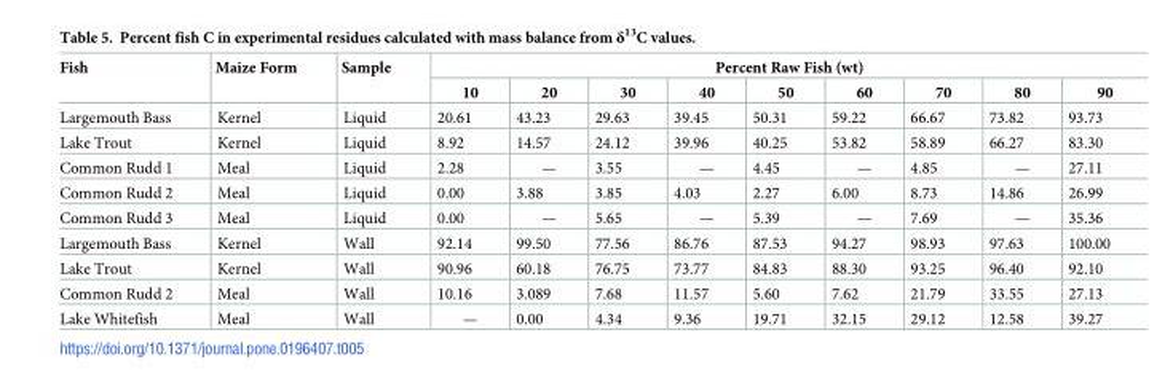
<table><thead><tr><td rowspan="2">Fish</td><td rowspan="2">Maize Form</td><td rowspan="2">Sample</td><td colspan="9">Percent Raw Fish (wt)</td></tr><tr><td>10</td><td>20</td><td>30</td><td>40</td><td>50</td><td>60</td><td>70</td><td>80</td><td>90</td></tr></thead><tbody><tr><td>Largemouth Bass</td><td>Kernel</td><td>Liquid</td><td>20.61</td><td>43.23</td><td>29.63</td><td>39.45</td><td>50.31</td><td>59.22</td><td>66.67</td><td>73.82</td><td>93.73</td></tr><tr><td>Lake Trout</td><td>Kernel</td><td>Liquid</td><td>8.92</td><td>14.57</td><td>24.12</td><td>39.96</td><td>40.25</td><td>53.82</td><td>58.89</td><td>66.27</td><td>83.30</td></tr><tr><td>Common Rudd 1</td><td>Meal</td><td>Liquid</td><td>2.28</td><td>—</td><td>3.55</td><td>—</td><td>4.45</td><td>—</td><td>4.85</td><td>—</td><td>27.11</td></tr><tr><td>Common Rudd 2</td><td>Meal</td><td>Liquid</td><td>0.00</td><td>3.88</td><td>3.85</td><td>4.03</td><td>2.27</td><td>6.00</td><td>8.73</td><td>14.86</td><td>26.99</td></tr><tr><td>Common Rudd 3</td><td>Meal</td><td>Liquid</td><td>0.00</td><td>—</td><td>5.65</td><td>—</td><td>5.39</td><td>—</td><td>7.69</td><td>—</td><td>35.36</td></tr><tr><td>Largemouth Bass</td><td>Kernel</td><td>Wall</td><td>92.14</td><td>99.50</td><td>77.56</td><td>86.76</td><td>87.53</td><td>94.27</td><td>98.93</td><td>97.63</td><td>100.00</td></tr><tr><td>Lake Trout</td><td>Kernel</td><td>Wall</td><td>90.96</td><td>60.18</td><td>76.75</td><td>73.77</td><td>84.83</td><td>88.30</td><td>93.25</td><td>96.40</td><td>92.10</td></tr><tr><td>Common Rudd 2</td><td>Meal</td><td>Wall</td><td>10.16</td><td>3.089</td><td>7.68</td><td>11.57</td><td>5.60</td><td>7.62</td><td>21.79</td><td>33.55</td><td>27.13</td></tr><tr><td>Lake Whitefish</td><td>Meal</td><td>Wall</td><td>—</td><td>0.00</td><td>4.34</td><td>9.36</td><td>19.71</td><td>32.15</td><td>29.12</td><td>12.58</td><td>39.27</td></tr></tbody></table>